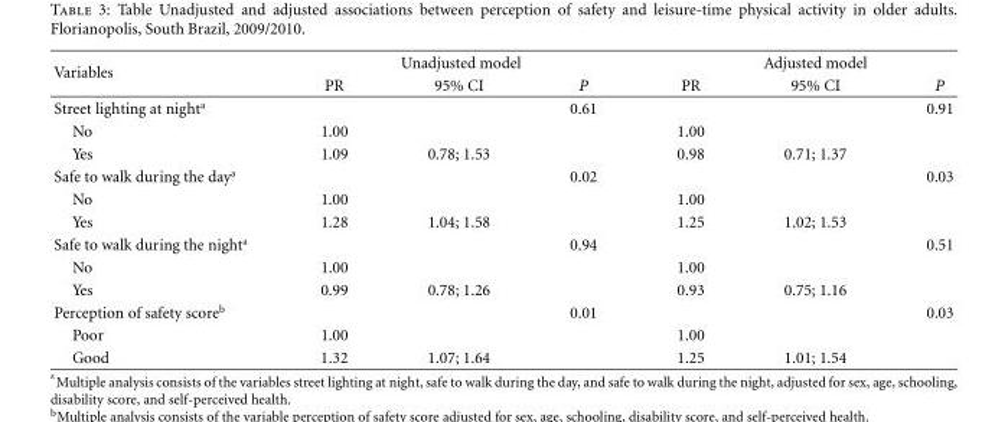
<table><thead><tr><td rowspan="2">Variables</td><td colspan="3">Unadjusted model</td><td colspan="3">Adjusted model</td></tr><tr><td>PR</td><td>95% CI</td><td>P</td><td>PR</td><td>95% CI</td><td>P</td></tr></thead><tbody><tr><td>Street lighting at night<sup>a</sup></td><td></td><td></td><td>0.61</td><td></td><td></td><td>0.91</td></tr><tr><td>No</td><td>1.00</td><td></td><td></td><td>1.00</td><td></td><td></td></tr><tr><td>Yes</td><td>1.09</td><td>0.78; 1.53</td><td></td><td>0.98</td><td>0.71; 1.37</td><td></td></tr><tr><td>Safe to walk during the day<sup>a</sup></td><td></td><td></td><td>0.02</td><td></td><td></td><td>0.03</td></tr><tr><td>No</td><td>1.00</td><td></td><td></td><td>1.00</td><td></td><td></td></tr><tr><td>Yes</td><td>1.28</td><td>1.04; 1.58</td><td></td><td>1.25</td><td>1.02; 1.53</td><td></td></tr><tr><td>Safe to walk during the night<sup>a</sup></td><td></td><td></td><td>0.94</td><td></td><td></td><td>0.51</td></tr><tr><td>No</td><td>1.00</td><td></td><td></td><td>1.00</td><td></td><td></td></tr><tr><td>Yes</td><td>0.99</td><td>0.78; 1.26</td><td></td><td>0.93</td><td>0.75; 1.16</td><td></td></tr><tr><td>Perception of safety score<sup>b</sup></td><td></td><td></td><td>0.01</td><td></td><td></td><td>0.03</td></tr><tr><td>Poor</td><td>1.00</td><td></td><td></td><td>1.00</td><td></td><td></td></tr><tr><td>Good</td><td>1.32</td><td>1.07; 1.64</td><td></td><td>1.25</td><td>1.01; 1.54</td><td></td></tr></tbody></table>